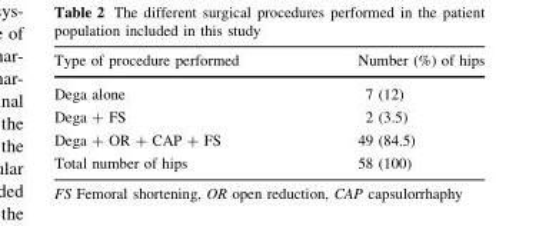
<table><thead><tr><td>Type of procedure performed</td><td>Number (%) of hips</td></tr></thead><tbody><tr><td>Dega alone</td><td>7 (12)</td></tr><tr><td>Dega + FS</td><td>2 (3.5)</td></tr><tr><td>Dega + OR + CAP + FS</td><td>49 (84.5)</td></tr><tr><td>Total number of hips</td><td>58 (100)</td></tr></tbody></table>